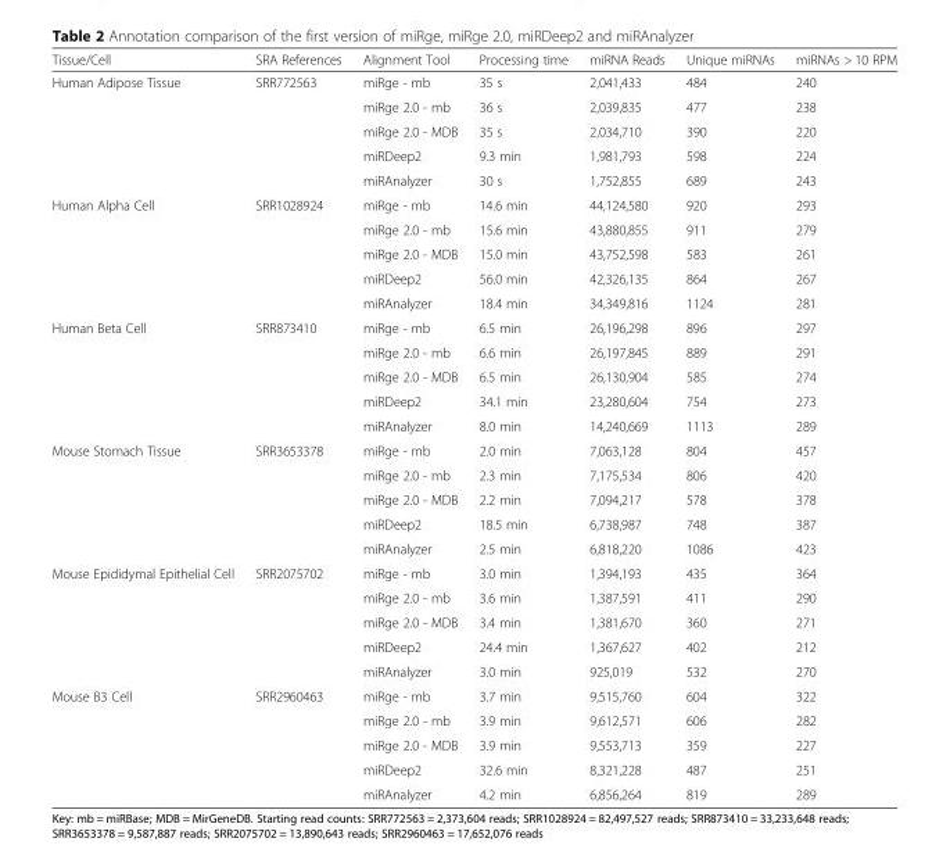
<table><thead><tr><td>Tissue/Cell</td><td>SRA References</td><td>Alignment Tool</td><td>Processing time</td><td>miRNA Reads</td><td>Unique miRNAs</td><td>miRNAs &gt; 10 RPM</td></tr></thead><tbody><tr><td rowspan="5">Human Adipose Tissue</td><td rowspan="5">SRR772563</td><td>miRge - mb</td><td>35 s</td><td>2,041,433</td><td>484</td><td>240</td></tr><tr><td>miRge 2.0 - mb</td><td>36 s</td><td>2,039,835</td><td>477</td><td>238</td></tr><tr><td>miRge 2.0 - MDB</td><td>35 s</td><td>2,034,710</td><td>390</td><td>220</td></tr><tr><td>miRDeep2</td><td>9.3 min</td><td>1,981,793</td><td>598</td><td>224</td></tr><tr><td>miRAnalyzer</td><td>30 s</td><td>1,752,855</td><td>689</td><td>243</td></tr><tr><td rowspan="5">Human Alpha Cell</td><td rowspan="5">SRR1028924</td><td>miRge - mb</td><td>14.6 min</td><td>44,124,580</td><td>920</td><td>293</td></tr><tr><td>miRge 2.0 - mb</td><td>15.6 min</td><td>43,880,855</td><td>911</td><td>279</td></tr><tr><td>miRge 2.0 - MDB</td><td>15.0 min</td><td>43,752,598</td><td>583</td><td>261</td></tr><tr><td>miRDeep2</td><td>56.0 min</td><td>42,326,135</td><td>864</td><td>267</td></tr><tr><td>miRAnalyzer</td><td>18.4 min</td><td>34,349,816</td><td>1124</td><td>281</td></tr><tr><td rowspan="5">Human Beta Cell</td><td rowspan="5">SRR873410</td><td>miRge - mb</td><td>6.5 min</td><td>26,196,298</td><td>896</td><td>297</td></tr><tr><td>miRge 2.0 - mb</td><td>6.6 min</td><td>26,197,845</td><td>889</td><td>291</td></tr><tr><td>miRge 2.0 - MDB</td><td>6.5 min</td><td>26,130,904</td><td>585</td><td>274</td></tr><tr><td>miRDeep2</td><td>34.1 min</td><td>23,280,604</td><td>754</td><td>273</td></tr><tr><td>miRAnalyzer</td><td>8.0 min</td><td>14,240,669</td><td>1113</td><td>289</td></tr><tr><td rowspan="5">Mouse Stomach Tissue</td><td rowspan="5">SRR3653378</td><td>miRge - mb</td><td>2.0 min</td><td>7,063,128</td><td>804</td><td>457</td></tr><tr><td>miRge 2.0 - mb</td><td>2.3 min</td><td>7,175,534</td><td>806</td><td>420</td></tr><tr><td>miRge 2.0 - MDB</td><td>2.2 min</td><td>7,094,217</td><td>578</td><td>378</td></tr><tr><td>miRDeep2</td><td>18.5 min</td><td>6,738,987</td><td>748</td><td>387</td></tr><tr><td>miRAnalyzer</td><td>2.5 min</td><td>6,818,220</td><td>1086</td><td>423</td></tr><tr><td rowspan="5">Mouse Epididymal Epithelial Cell</td><td rowspan="5">SRR2075702</td><td>miRge - mb</td><td>3.0 min</td><td>1,394,193</td><td>435</td><td>364</td></tr><tr><td>miRge 2.0 - mb</td><td>3.6 min</td><td>1,387,591</td><td>411</td><td>290</td></tr><tr><td>miRge 2.0 - MDB</td><td>3.4 min</td><td>1,381,670</td><td>360</td><td>271</td></tr><tr><td>miRDeep2</td><td>24.4 min</td><td>1,367,627</td><td>402</td><td>212</td></tr><tr><td>miRAnalyzer</td><td>3.0 min</td><td>925,019</td><td>532</td><td>270</td></tr><tr><td rowspan="5">Mouse B3 Cell</td><td rowspan="5">SRR2960463</td><td>miRge - mb</td><td>3.7 min</td><td>9,515,760</td><td>604</td><td>322</td></tr><tr><td>miRge 2.0 - mb</td><td>3.9 min</td><td>9,612,571</td><td>606</td><td>282</td></tr><tr><td>miRge 2.0 - MDB</td><td>3.9 min</td><td>9,553,713</td><td>359</td><td>227</td></tr><tr><td>miRDeep2</td><td>32.6 min</td><td>8,321,228</td><td>487</td><td>251</td></tr><tr><td>miRAnalyzer</td><td>4.2 min</td><td>6,856,264</td><td>819</td><td>289</td></tr></tbody></table>